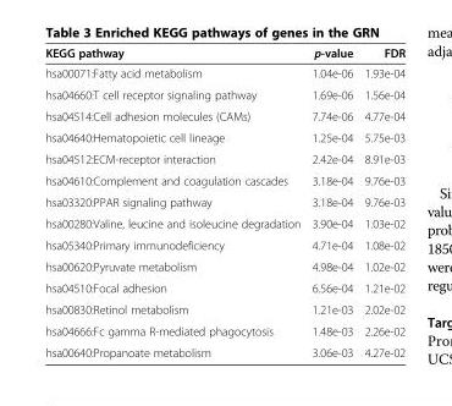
<table><thead><tr><td>KEGG pathway</td><td>p-value</td><td>FDR</td></tr></thead><tbody><tr><td>hsa00071:Fatty acid metabolism</td><td>1.04e-06</td><td>1.93e-04</td></tr><tr><td>hsa04660:T cell receptor signaling pathway</td><td>1.69e-06</td><td>1.56e-04</td></tr><tr><td>hsa04514:Cell adhesion molecules (CAMs)</td><td>7.74e-06</td><td>4.77e-04</td></tr><tr><td>hsa04640:Hematopoietic cell lineage</td><td>1.25e-04</td><td>5.75e-03</td></tr><tr><td>hsa04512:ECM-receptor interaction</td><td>2.42e-04</td><td>8.91e-03</td></tr><tr><td>hsa04610:Complement and coagulation cascades</td><td>3.18e-04</td><td>9.76e-03</td></tr><tr><td>hsa03320:PPAR signaling pathway</td><td>3.18e-04</td><td>9.76e-03</td></tr><tr><td>hsa00280:Valine, leucine and isoleucine degradation</td><td>3.90e-04</td><td>1.03e-02</td></tr><tr><td>hsa05340:Primary immunodeficiency</td><td>4.71e-04</td><td>1.08e-02</td></tr><tr><td>hsa00620:Pyruvate metabolism</td><td>4.98e-04</td><td>1.02e-02</td></tr><tr><td>hsa04510:Focal adhesion</td><td>6.56e-04</td><td>1.21e-02</td></tr><tr><td>hsa00830:Retinol metabolism</td><td>1.21e-03</td><td>2.02e-02</td></tr><tr><td>hsa04666:Fc gamma R-mediated phagocytosis</td><td>1.48e-03</td><td>2.26e-02</td></tr><tr><td>hsa00640:Propanoate metabolism</td><td>3.06e-03</td><td>4.27e-02</td></tr></tbody></table>